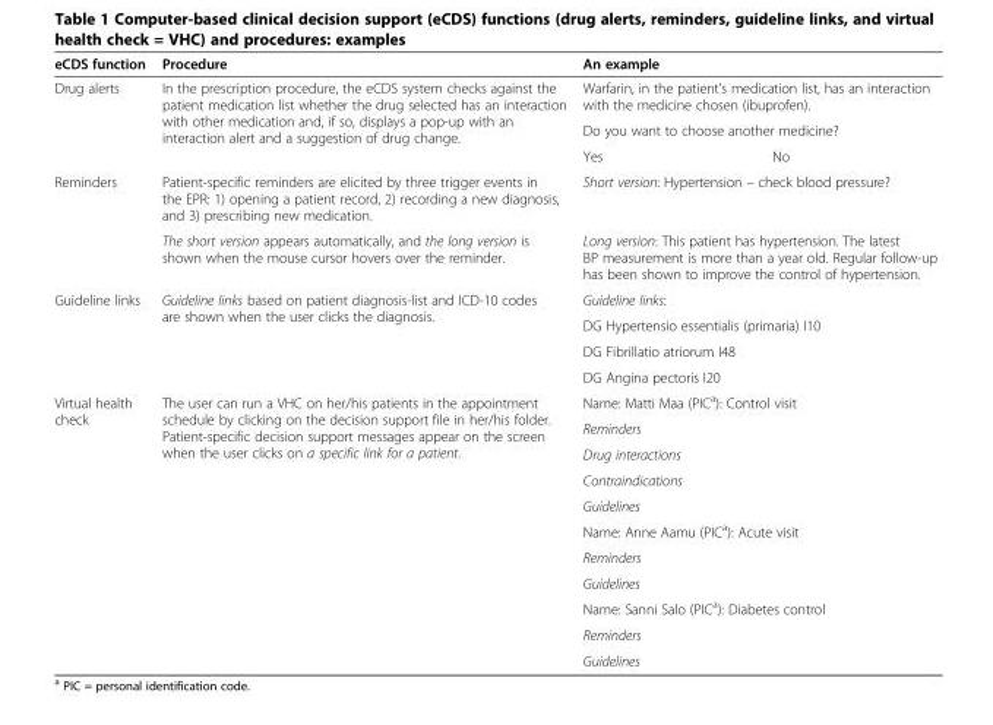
<table><thead><tr><td rowspan="4">eCDS function Drug alerts</td><td rowspan="4">Procedure In the prescription procedure, the eCDS system checks against the patient medication list whether the drug selected has an interaction with other medication and, if so, displays a pop-up with an interaction alert and a suggestion of drug change.</td><td rowspan="3" colspan="2">An example Warfarin, in the patient’s medication list, has an interaction with the medicine chosen (ibuprofen). Do you want to choose another medicine?</td></tr><tr></tr><tr></tr><tr><td>Yes</td><td>No</td></tr></thead><tbody><tr><td rowspan="2">Reminders</td><td>Patient-specific reminders are elicited by three trigger events in the EPR: 1) opening a patient record, 2) recording a new diagnosis, and 3) prescribing new medication.</td><td colspan="2">Short version: Hypertension – check blood pressure?</td></tr><tr><td>The short version appears automatically, and the long version is shown when the mouse cursor hovers over the reminder.</td><td colspan="2">Long version: This patient has hypertension. The latest BP measurement is more than a year old. Regular follow-up has been shown to improve the control of hypertension.</td></tr><tr><td rowspan="4">Guideline links</td><td rowspan="4">Guideline links based on patient diagnosis-list and ICD-10 codes are shown when the user clicks the diagnosis.</td><td colspan="2">Guideline links:</td></tr><tr><td colspan="2">DG Hypertensio essentialis (primaria) I10</td></tr><tr><td colspan="2">DG Fibrillatio atriorum I48</td></tr><tr><td colspan="2">DG Angina pectoris I20</td></tr><tr><td rowspan="11">Virtual health check</td><td rowspan="11">The user can run a VHC on her/his patients in the appointment schedule by clicking on the decision support file in her/his folder. Patient-specific decision support messages appear on the screen when the user clicks on a specific link for a patient.</td><td colspan="2">Name: Matti Maa (PIC<sup>a</sup>): Control visit</td></tr><tr><td colspan="2">Reminders</td></tr><tr><td colspan="2">Drug interactions</td></tr><tr><td colspan="2">Contraindications</td></tr><tr><td colspan="2">Guidelines</td></tr><tr><td colspan="2">Name: Anne Aamu (PIC<sup>a</sup>): Acute visit</td></tr><tr><td colspan="2">Reminders</td></tr><tr><td colspan="2">Guidelines</td></tr><tr><td colspan="2">Name: Sanni Salo (PIC<sup>a</sup>): Diabetes control</td></tr><tr><td colspan="2">Reminders</td></tr><tr><td colspan="2">Guidelines</td></tr></tbody></table>